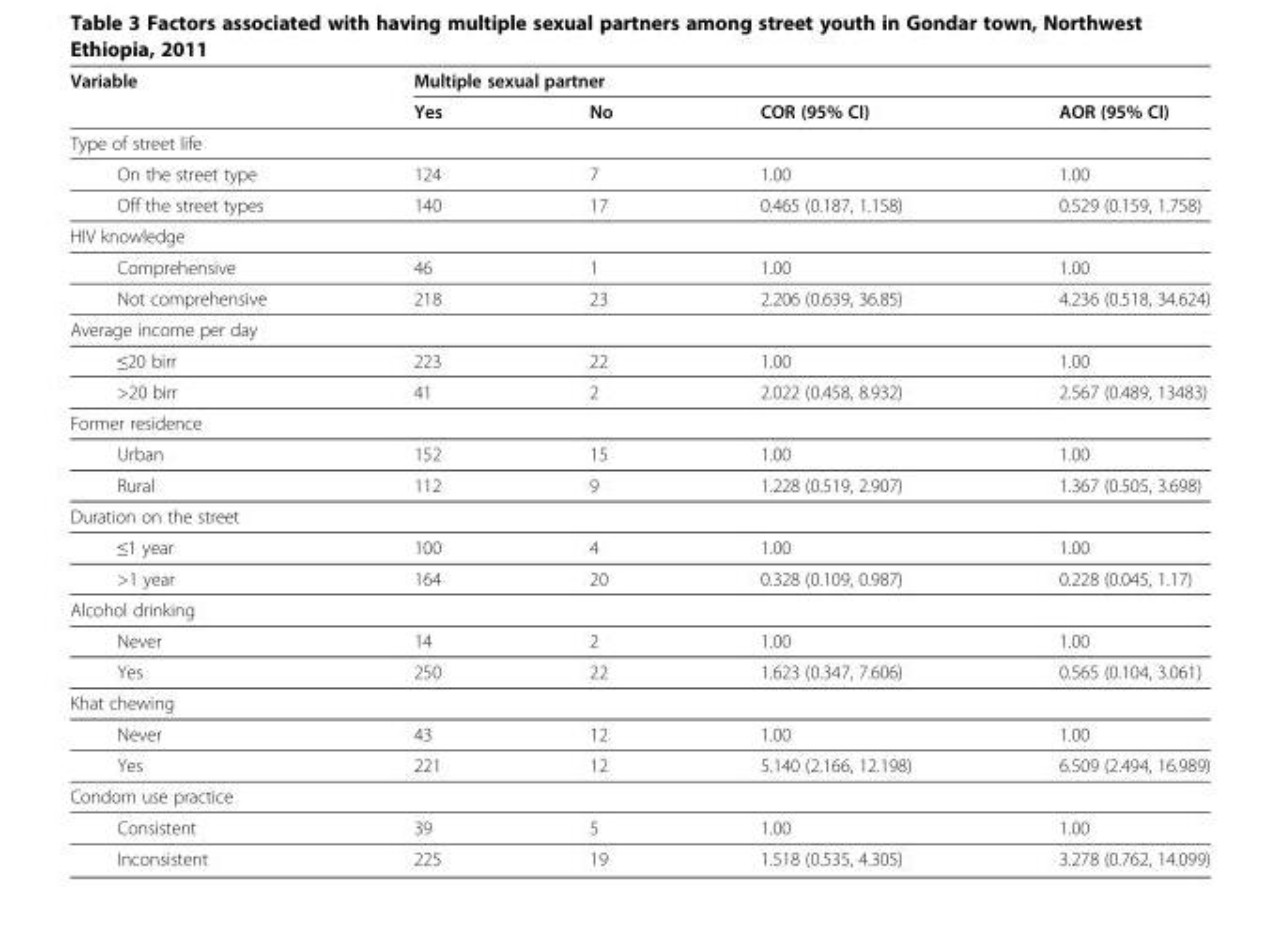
<table><thead><tr><td rowspan="2">Variable</td><td colspan="4">Multiple sexual partner</td></tr><tr><td>Yes</td><td>No</td><td>COR (95% CI)</td><td>AOR (95% CI)</td></tr></thead><tbody><tr><td colspan="5">Type of street life</td></tr><tr><td>On the street type</td><td>124</td><td>7</td><td>1.00</td><td>1.00</td></tr><tr><td>Off the street types</td><td>140</td><td>17</td><td>0.465 (0.187, 1.158)</td><td>0.529 (0.159, 1.758)</td></tr><tr><td colspan="5">HIV knowledge</td></tr><tr><td>Comprehensive</td><td>46</td><td>1</td><td>1.00</td><td>1.00</td></tr><tr><td>Not comprehensive</td><td>218</td><td>23</td><td>2.206 (0.639, 36.85)</td><td>4.236 (0.518, 34.624)</td></tr><tr><td colspan="5">Average income per day</td></tr><tr><td>≤20 birr</td><td>223</td><td>22</td><td>1.00</td><td>1.00</td></tr><tr><td>&gt;20 birr</td><td>41</td><td>2</td><td>2.022 (0.458, 8.932)</td><td>2.567 (0.489, 13483)</td></tr><tr><td colspan="5">Former residence</td></tr><tr><td>Urban</td><td>152</td><td>15</td><td>1.00</td><td>1.00</td></tr><tr><td>Rural</td><td>112</td><td>9</td><td>1.228 (0.519, 2.907)</td><td>1.367 (0.505, 3.698)</td></tr><tr><td colspan="5">Duration on the street</td></tr><tr><td>≤1 year</td><td>100</td><td>4</td><td>1.00</td><td>1.00</td></tr><tr><td>&gt;1 year</td><td>164</td><td>20</td><td>0.328 (0.109, 0.987)</td><td>0.228 (0.045, 1.17)</td></tr><tr><td colspan="5">Alcohol drinking</td></tr><tr><td>Never</td><td>14</td><td>2</td><td>1.00</td><td>1.00</td></tr><tr><td>Yes</td><td>250</td><td>22</td><td>1.623 (0.347, 7.606)</td><td>0.565 (0.104, 3.061)</td></tr><tr><td colspan="5">Khat chewing</td></tr><tr><td>Never</td><td>43</td><td>12</td><td>1.00</td><td>1.00</td></tr><tr><td>Yes</td><td>221</td><td>12</td><td>5.140 (2.166, 12.198)</td><td>6.509 (2.494, 16.989)</td></tr><tr><td colspan="5">Condom use practice</td></tr><tr><td>Consistent</td><td>39</td><td>5</td><td>1.00</td><td>1.00</td></tr><tr><td>Inconsistent</td><td>225</td><td>19</td><td>1.518 (0.535, 4.305)</td><td>3.278 (0.762, 14.099)</td></tr></tbody></table>